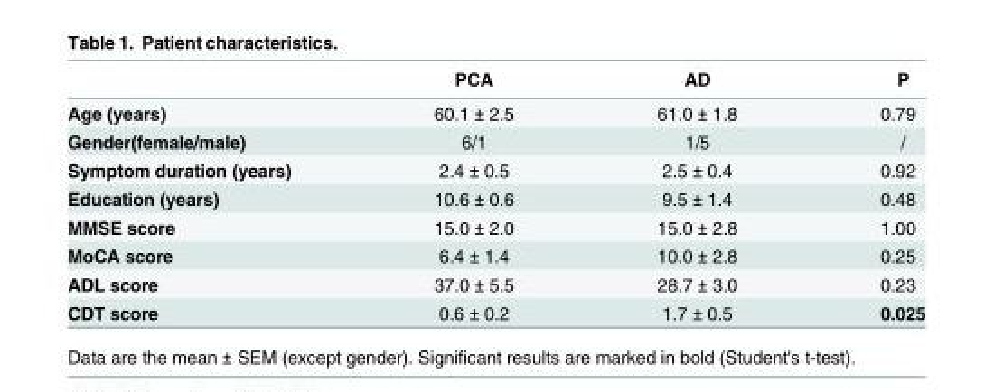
<table><thead><tr><td></td><td>PCA</td><td>AD</td><td>P</td></tr></thead><tbody><tr><td>Age (years)</td><td>60.1 ± 2.5</td><td>61.0 ± 1.8</td><td>0.79</td></tr><tr><td>Gender(female/male)</td><td>6/1</td><td>1/5</td><td>/</td></tr><tr><td>Symptom duration (years)</td><td>2.4 ± 0.5</td><td>2.5 ± 0.4</td><td>0.92</td></tr><tr><td>Education (years)</td><td>10.6 ± 0.6</td><td>9.5 ± 1.4</td><td>0.48</td></tr><tr><td>MMSE score</td><td>15.0 ± 2.0</td><td>15.0 ± 2.8</td><td>1.00</td></tr><tr><td>MoCA score</td><td>6.4 ± 1.4</td><td>10.0 ± 2.8</td><td>0.25</td></tr><tr><td>ADL score</td><td>37.0 ± 5.5</td><td>28.7 ± 3.0</td><td>0.23</td></tr><tr><td>CDT score</td><td>0.6 ± 0.2</td><td>1.7 ± 0.5</td><td>0.025</td></tr></tbody></table>